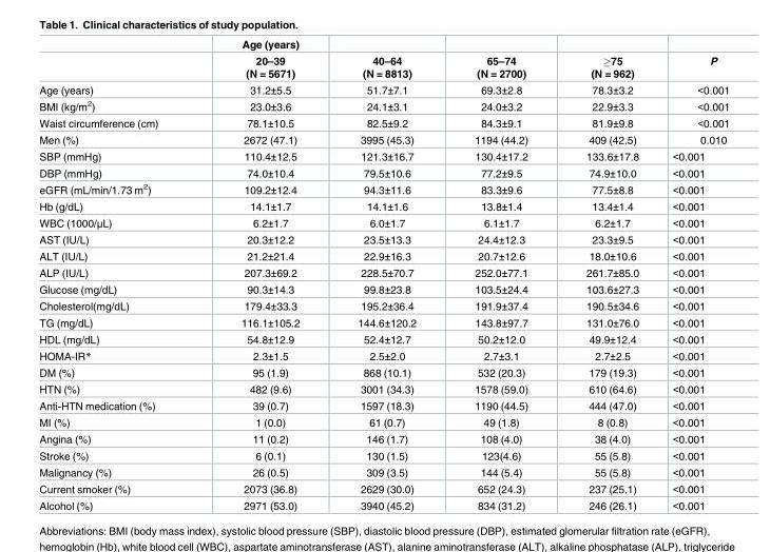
<table><thead><tr><td rowspan="2"></td><td rowspan="2">Age (years) 20–39 (N = 5671)</td><td rowspan="2">40–64 (N = 8813)</td><td rowspan="2">65–74 (N = 2700)</td><td rowspan="2">≥75 (N = 962)</td><td rowspan="2">P</td></tr><tr></tr></thead><tbody><tr><td>Age (years)</td><td>31.2±5.5</td><td>51.7±7.1</td><td>69.3±2.8</td><td>78.3±3.2</td><td>&lt;0.001</td></tr><tr><td>BMI (kg/m<sup>2</sup>)</td><td>23.0±3.6</td><td>24.1±3.1</td><td>24.0±3.2</td><td>22.9±3.3</td><td>&lt;0.001</td></tr><tr><td>Waist circumference (cm)</td><td>78.1±10.5</td><td>82.5±9.2</td><td>84.3±9.1</td><td>81.9±9.8</td><td>&lt;0.001</td></tr><tr><td>Men (%)</td><td>2672 (47.1)</td><td>3995 (45.3)</td><td>1194 (44.2)</td><td>409 (42.5)</td><td>0.010</td></tr><tr><td>SBP (mmHg)</td><td>110.4±12.5</td><td>121.3±16.7</td><td>130.4±17.2</td><td>133.6±17.8</td><td>&lt;0.001</td></tr><tr><td>DBP (mmHg)</td><td>74.0±10.4</td><td>79.5±10.6</td><td>77.2±9.5</td><td>74.9±10.0</td><td>&lt;0.001</td></tr><tr><td>eGFR (mL/min/1.73 m<sup>2</sup>)</td><td>109.2±12.4</td><td>94.3±11.6</td><td>83.3±9.6</td><td>77.5±8.8</td><td>&lt;0.001</td></tr><tr><td>Hb (g/dL)</td><td>14.1±1.7</td><td>14.1±1.6</td><td>13.8±1.4</td><td>13.4±1.4</td><td>&lt;0.001</td></tr><tr><td>WBC (1000/μL)</td><td>6.2±1.7</td><td>6.0±1.7</td><td>6.1±1.7</td><td>6.2±1.7</td><td>&lt;0.001</td></tr><tr><td>AST (IU/L)</td><td>20.3±12.2</td><td>23.5±13.3</td><td>24.4±12.3</td><td>23.3±9.5</td><td>&lt;0.001</td></tr><tr><td>ALT (IU/L)</td><td>21.2±21.4</td><td>22.9±16.3</td><td>20.7±12.6</td><td>18.0±10.6</td><td>&lt;0.001</td></tr><tr><td>ALP (IU/L)</td><td>207.3±69.2</td><td>228.5±70.7</td><td>252.0±77.1</td><td>261.7±85.0</td><td>&lt;0.001</td></tr><tr><td>Glucose (mg/dL)</td><td>90.3±14.3</td><td>99.8±23.8</td><td>103.5±24.4</td><td>103.6±27.3</td><td>&lt;0.001</td></tr><tr><td>Cholesterol(mg/dL)</td><td>179.4±33.3</td><td>195.2±36.4</td><td>191.9±37.4</td><td>190.5±34.6</td><td>&lt;0.001</td></tr><tr><td>TG (mg/dL)</td><td>116.1±105.2</td><td>144.6±120.2</td><td>143.8±97.7</td><td>131.0±76.0</td><td>&lt;0.001</td></tr><tr><td>HDL (mg/dL)</td><td>54.8±12.9</td><td>52.4±12.7</td><td>50.2±12.0</td><td>49.9±12.4</td><td>&lt;0.001</td></tr><tr><td>HOMA-IR*</td><td>2.3±1.5</td><td>2.5±2.0</td><td>2.7±3.1</td><td>2.7±2.5</td><td>&lt;0.001</td></tr><tr><td>DM (%)</td><td>95 (1.9)</td><td>868 (10.1)</td><td>532 (20.3)</td><td>179 (19.3)</td><td>&lt;0.001</td></tr><tr><td>HTN (%)</td><td>482 (9.6)</td><td>3001 (34.3)</td><td>1578 (59.0)</td><td>610 (64.6)</td><td>&lt;0.001</td></tr><tr><td>Anti-HTN medication (%)</td><td>39 (0.7)</td><td>1597 (18.3)</td><td>1190 (44.5)</td><td>444 (47.0)</td><td>&lt;0.001</td></tr><tr><td>MI (%)</td><td>1 (0.0)</td><td>61 (0.7)</td><td>49 (1.8)</td><td>8 (0.8)</td><td>&lt;0.001</td></tr><tr><td>Angina (%)</td><td>11 (0.2)</td><td>146 (1.7)</td><td>108 (4.0)</td><td>38 (4.0)</td><td>&lt;0.001</td></tr><tr><td>Stroke (%)</td><td>6 (0.1)</td><td>130 (1.5)</td><td>123(4.6)</td><td>55 (5.8)</td><td>&lt;0.001</td></tr><tr><td>Malignancy (%)</td><td>26 (0.5)</td><td>309 (3.5)</td><td>144 (5.4)</td><td>55 (5.8)</td><td>&lt;0.001</td></tr><tr><td>Current smoker (%)</td><td>2073 (36.8)</td><td>2629 (30.0)</td><td>652 (24.3)</td><td>237 (25.1)</td><td>&lt;0.001</td></tr><tr><td>Alcohol (%)</td><td>2971 (53.0)</td><td>3940 (45.2)</td><td>834 (31.2)</td><td>246 (26.1)</td><td>&lt;0.001</td></tr></tbody></table>